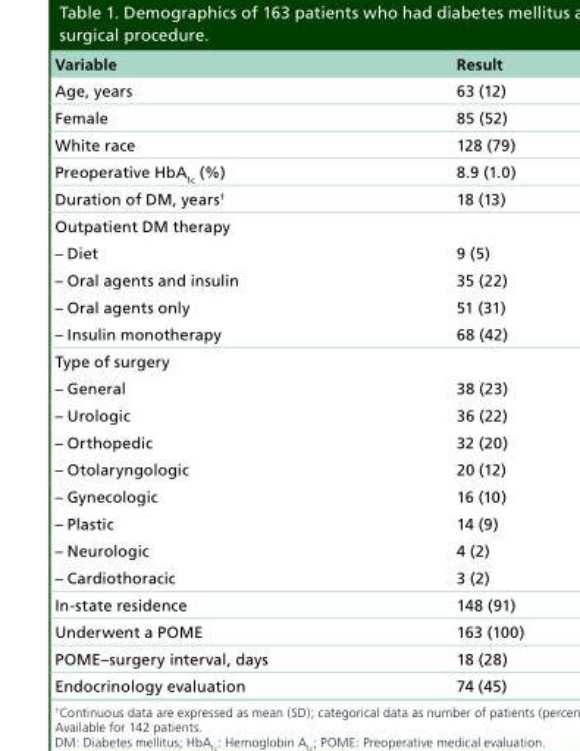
<table><thead><tr><td>Variable</td><td>Result</td></tr></thead><tbody><tr><td>Age, years</td><td>63 (12)</td></tr><tr><td>Female</td><td>85 (52)</td></tr><tr><td>White race</td><td>128 (79)</td></tr><tr><td>Preoperative HbA<sub>1c</sub> (%)</td><td>8.9 (1.0)</td></tr><tr><td>Duration of DM, years<sup>†</sup></td><td>18 (13)</td></tr><tr><td colspan="2">Outpatient DM therapy</td></tr><tr><td>– Diet</td><td>9 (5)</td></tr><tr><td>– Oral agents and insulin</td><td>35 (22)</td></tr><tr><td>– Oral agents only</td><td>51 (31)</td></tr><tr><td>– Insulin monotherapy</td><td>68 (42)</td></tr><tr><td colspan="2">Type of surgery</td></tr><tr><td>– General</td><td>38 (23)</td></tr><tr><td>– Urologic</td><td>36 (22)</td></tr><tr><td>– Orthopedic</td><td>32 (20)</td></tr><tr><td>– Otolaryngologic</td><td>20 (12)</td></tr><tr><td>– Gynecologic</td><td>16 (10)</td></tr><tr><td>– Plastic</td><td>14 (9)</td></tr><tr><td>– Neurologic</td><td>4 (2)</td></tr><tr><td>– Cardiothoracic</td><td>3 (2)</td></tr><tr><td>In-state residence</td><td>148 (91)</td></tr><tr><td>Underwent a POME</td><td>163 (100)</td></tr><tr><td>POME–surgery interval, days</td><td>18 (28)</td></tr><tr><td>Endocrinology evaluation</td><td>74 (45)</td></tr></tbody></table>